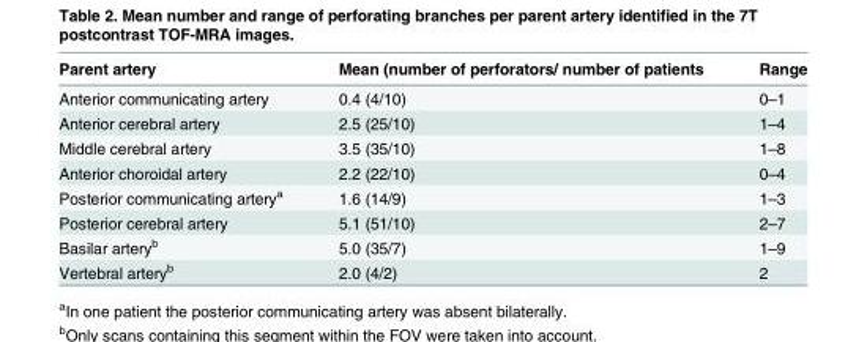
<table><thead><tr><td>Parent artery</td><td>Mean (number of perforators/ number of patients</td><td>Range</td></tr></thead><tbody><tr><td>Anterior communicating artery</td><td>0.4 (4/10)</td><td>0–1</td></tr><tr><td>Anterior cerebral artery</td><td>2.5 (25/10)</td><td>1–4</td></tr><tr><td>Middle cerebral artery</td><td>3.5 (35/10)</td><td>1–8</td></tr><tr><td>Anterior choroidal artery</td><td>2.2 (22/10)</td><td>0–4</td></tr><tr><td>Posterior communicating artery<sup>a</sup></td><td>1.6 (14/9)</td><td>1–3</td></tr><tr><td>Posterior cerebral artery</td><td>5.1 (51/10)</td><td>2–7</td></tr><tr><td>Basilar artery<sup>b</sup></td><td>5.0 (35/7)</td><td>1–9</td></tr><tr><td>Vertebral artery<sup>b</sup></td><td>2.0 (4/2)</td><td>2</td></tr></tbody></table>